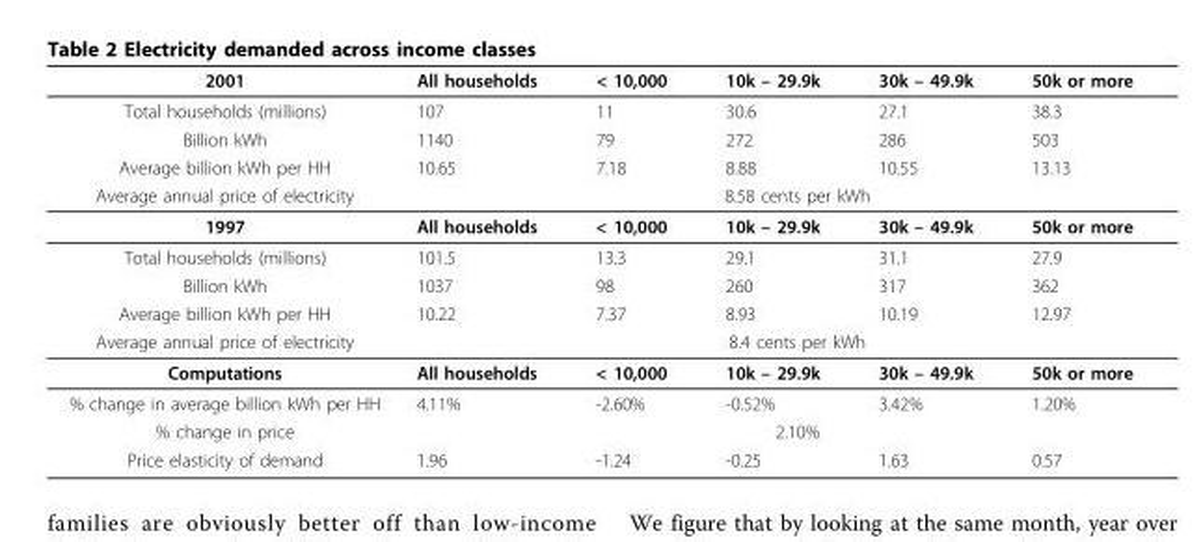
<table><thead><tr><td>2001</td><td>All households</td><td>&lt; 10,000</td><td>10k – 29.9k</td><td>30k – 49.9k</td><td>50k or more</td></tr></thead><tbody><tr><td>Total households (millions)</td><td>107</td><td>11</td><td>30.6</td><td>27.1</td><td>38.3</td></tr><tr><td>Billion kWh</td><td>1140</td><td>79</td><td>272</td><td>286</td><td>503</td></tr><tr><td>Average billion kWh per HH</td><td>10.65</td><td>7.18</td><td>8.88</td><td>10.55</td><td>13.13</td></tr><tr><td>Average annual price of electricity</td><td colspan="5">8.58 cents per kWh</td></tr><tr><td>1997</td><td>All households</td><td>&lt; 10,000</td><td>10k – 29.9k</td><td>30k – 49.9k</td><td>50k or more</td></tr><tr><td>Total households (millions)</td><td>101.5</td><td>13.3</td><td>29.1</td><td>31.1</td><td>27.9</td></tr><tr><td>Billion kWh</td><td>1037</td><td>98</td><td>260</td><td>317</td><td>362</td></tr><tr><td>Average billion kWh per HH</td><td>10.22</td><td>7.37</td><td>8.93</td><td>10.19</td><td>12.97</td></tr><tr><td>Average annual price of electricity</td><td colspan="5">8.4 cents per kWh</td></tr><tr><td>Computations</td><td>All households</td><td>&lt; 10,000</td><td>10k – 29.9k</td><td>30k – 49.9k</td><td>50k or more</td></tr><tr><td>% change in average billion kWh per HH</td><td>4.11%</td><td>-2.60%</td><td>-0.52%</td><td>3.42%</td><td>1.20%</td></tr><tr><td>% change in price</td><td colspan="5">2.10%</td></tr><tr><td>Price elasticity of demand</td><td>1.96</td><td>-1.24</td><td>-0.25</td><td>1.63</td><td>0.57</td></tr></tbody></table>